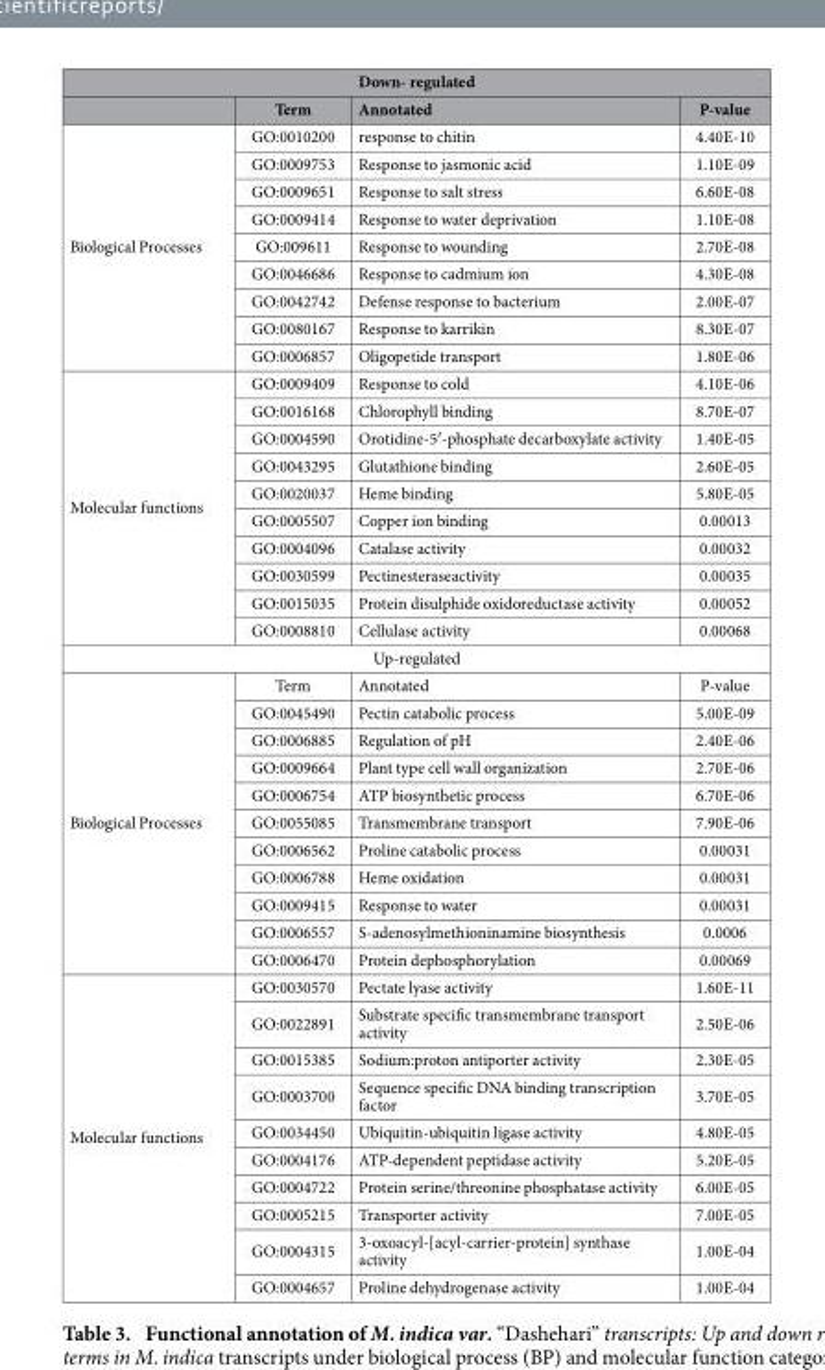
<table><thead><tr><td colspan="4">Down- regulated</td></tr><tr><td></td><td>Term</td><td>Annotated</td><td>P-value</td></tr></thead><tbody><tr><td rowspan="9">Biological Processes</td><td>GO:0010200</td><td>response to chitin</td><td>4.40E-10</td></tr><tr><td>GO:0009753</td><td>Response to jasmonic acid</td><td>1.10E-09</td></tr><tr><td>GO:0009651</td><td>Response to salt stress</td><td>6.60E-08</td></tr><tr><td>GO:0009414</td><td>Response to water deprivation</td><td>1.10E-08</td></tr><tr><td>GO:009611</td><td>Response to wounding</td><td>2.70E-08</td></tr><tr><td>GO:0046686</td><td>Response to cadmium ion</td><td>4.30E-08</td></tr><tr><td>GO:0042742</td><td>Defense response to bacterium</td><td>2.00E-07</td></tr><tr><td>GO:0080167</td><td>Response to karrikin</td><td>8.30E-07</td></tr><tr><td>GO:0006857</td><td>Oligopetide transport</td><td>1.80E-06</td></tr><tr><td rowspan="10">Molecular functions</td><td>GO:0009409</td><td>Response to cold</td><td>4.10E-06</td></tr><tr><td>GO:0016168</td><td>Chlorophyll binding</td><td>8.70E-07</td></tr><tr><td>GO:0004590</td><td>Orotidine-5′ -phosphate decarboxylate activity</td><td>1.40E-05</td></tr><tr><td>GO:0043295</td><td>Glutathione binding</td><td>2.60E-05</td></tr><tr><td>GO:0020037</td><td>Heme binding</td><td>5.80E-05</td></tr><tr><td>GO:0005507</td><td>Copper ion binding</td><td>0.00013</td></tr><tr><td>GO:0004096</td><td>Catalase activity</td><td>0.00032</td></tr><tr><td>GO:0030599</td><td>Pectinesteraseactivity</td><td>0.00035</td></tr><tr><td>GO:0015035</td><td>Protein disulphide oxidoreductase activity</td><td>0.00052</td></tr><tr><td>GO:0008810</td><td>Cellulase activity</td><td>0.00068</td></tr><tr><td colspan="4">Up-regulated</td></tr><tr><td rowspan="11">Biological Processes</td><td>Term</td><td>Annotated</td><td>P-value</td></tr><tr><td>GO:0045490</td><td>Pectin catabolic process</td><td>5.00E-09</td></tr><tr><td>GO:0006885</td><td>Regulation of pH</td><td>2.40E-06</td></tr><tr><td>GO:0009664</td><td>Plant type cell wall organization</td><td>2.70E-06</td></tr><tr><td>GO:0006754</td><td>ATP biosynthetic process</td><td>6.70E-06</td></tr><tr><td>GO:0055085</td><td>Transmembrane transport</td><td>7.90E-06</td></tr><tr><td>GO:0006562</td><td>Proline catabolic process</td><td>0.00031</td></tr><tr><td>GO:0006788</td><td>Heme oxidation</td><td>0.00031</td></tr><tr><td>GO:0009415</td><td>Response to water</td><td>0.00031</td></tr><tr><td>GO:0006557</td><td>S-adenosylmethioninamine biosynthesis</td><td>0.0006</td></tr><tr><td>GO:0006470</td><td>Protein dephosphorylation</td><td>0.00069</td></tr><tr><td rowspan="10">Molecular functions</td><td>GO:0030570</td><td>Pectate lyase activity</td><td>1.60E-11</td></tr><tr><td>GO:0022891</td><td>Substrate specific transmembrane transport activity</td><td>2.50E-06</td></tr><tr><td>GO:0015385</td><td>Sodium:proton antiporter activity</td><td>2.30E-05</td></tr><tr><td>GO:0003700</td><td>Sequence specific DNA binding transcription factor</td><td>3.70E-05</td></tr><tr><td>GO:0034450</td><td>Ubiquitin-ubiquitin ligase activity</td><td>4.80E-05</td></tr><tr><td>GO:0004176</td><td>ATP-dependent peptidase activity</td><td>5.20E-05</td></tr><tr><td>GO:0004722</td><td>Protein serine/threonine phosphatase activity</td><td>6.00E-05</td></tr><tr><td>GO:0005215</td><td>Transporter activity</td><td>7.00E-05</td></tr><tr><td>GO:0004315</td><td>3-oxoacyl-[acyl-carrier-protein] synthase activity</td><td>1.00E-04</td></tr><tr><td>GO:0004657</td><td>Proline dehydrogenase activity</td><td>1.00E-04</td></tr></tbody></table>